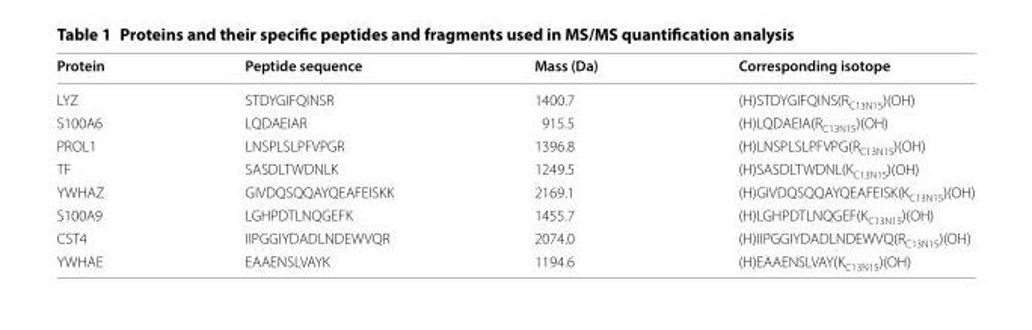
<table><thead><tr><td>Protein</td><td>Peptide sequence</td><td>Mass (Da)</td><td>Corresponding isotope</td></tr></thead><tbody><tr><td>LYZ</td><td>STDYGIFQINSR</td><td>1400.7</td><td>(H)STDYGIFQINS(R<sub>C13N15</sub>)(OH)</td></tr><tr><td>S100A6</td><td>LQDAEIAR</td><td>915.5</td><td>(H)LQDAEIA(R<sub>C13N15</sub>)(OH)</td></tr><tr><td>PROL1</td><td>LNSPLSLPFVPGR</td><td>1396.8</td><td>(H)LNSPLSLPFVPG(R<sub>C13N15</sub>)(OH)</td></tr><tr><td>TF</td><td>SASDLTWDNLK</td><td>1249.5</td><td>(H)SASDLTWDNL(K<sub>C13N15</sub>)(OH)</td></tr><tr><td>YWHAZ</td><td>GIVDQSQQAYQEAFEISKK</td><td>2169.1</td><td>(H)GIVDQSQQAYQEAFEISK(K<sub>C13N15</sub>)(OH)</td></tr><tr><td>S100A9</td><td>LGHPDTLNQGEFK</td><td>1455.7</td><td>(H)LGHPDTLNQGEF(K<sub>C13N15</sub>)(OH)</td></tr><tr><td>CST4</td><td>IIPGGIYDADLNDEWVQR</td><td>2074.0</td><td>(H)IIPGGIYDADLNDEWVQ(R<sub>C13N15</sub>)(OH)</td></tr><tr><td>YWHAE</td><td>EAAENSLVAYK</td><td>1194.6</td><td>(H)EAAENSLVAY(K<sub>C13N15</sub>)(OH)</td></tr></tbody></table>